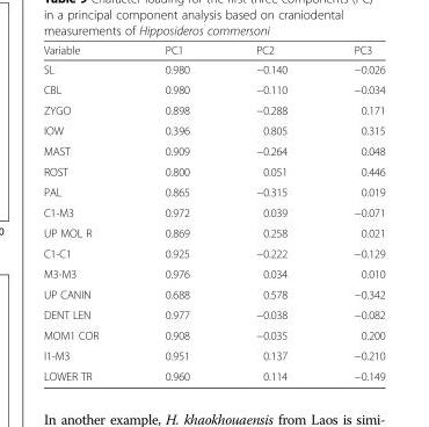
<table><thead><tr><td>Variable</td><td>PC1</td><td>PC2</td><td>PC3</td></tr></thead><tbody><tr><td>SL</td><td>0.980</td><td>−0.140</td><td>−0.026</td></tr><tr><td>CBL</td><td>0.980</td><td>−0.110</td><td>−0.034</td></tr><tr><td>ZYGO</td><td>0.898</td><td>−0.288</td><td>0.171</td></tr><tr><td>IOW</td><td>0.396</td><td>0.805</td><td>0.315</td></tr><tr><td>MAST</td><td>0.909</td><td>−0.264</td><td>0.048</td></tr><tr><td>ROST</td><td>0.800</td><td>0.051</td><td>0.446</td></tr><tr><td>PAL</td><td>0.865</td><td>−0.315</td><td>0.019</td></tr><tr><td>C1-M3</td><td>0.972</td><td>0.039</td><td>−0.071</td></tr><tr><td>UP MOL R</td><td>0.869</td><td>0.258</td><td>0.021</td></tr><tr><td>C1-C1</td><td>0.925</td><td>−0.222</td><td>−0.129</td></tr><tr><td>M3-M3</td><td>0.976</td><td>0.034</td><td>0.010</td></tr><tr><td>UP CANIN</td><td>0.688</td><td>0.578</td><td>−0.342</td></tr><tr><td>DENT LEN</td><td>0.977</td><td>−0.038</td><td>−0.082</td></tr><tr><td>MOM1 COR</td><td>0.908</td><td>−0.035</td><td>0.200</td></tr><tr><td>I1-M3</td><td>0.951</td><td>0.137</td><td>−0.210</td></tr><tr><td>LOWER TR</td><td>0.960</td><td>0.114</td><td>−0.149</td></tr></tbody></table>